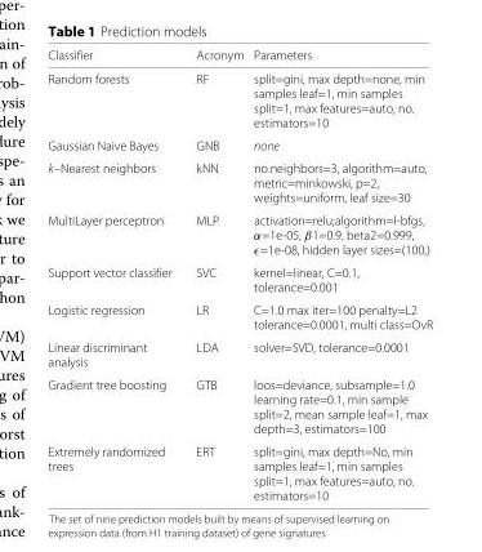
<table><thead><tr><td>Classifier</td><td>Acronym</td><td>Parameters</td></tr></thead><tbody><tr><td>Random forests</td><td>RF</td><td>split=gini, max depth=none, min samples leaf=1, min samples split=1, max features=auto, no. estimators=10</td></tr><tr><td>Gaussian Naive Bayes</td><td>GNB</td><td>none</td></tr><tr><td>k–Nearest neighbors</td><td>kNN</td><td>no.neighbors=3, algorithm=auto, metric=minkowski, p=2, weights=uniform, leaf size=30</td></tr><tr><td>MultiLayer perceptron</td><td>MLP</td><td>activation=relu;algorithm=l-bfgs, α=1e-05, β1=0.9, beta2=0.999, ϵ=1e-08, hidden layer sizes=(100,)</td></tr><tr><td>Support vector classifier</td><td>SVC</td><td>kernel=linear, C=0.1, tolerance=0.001</td></tr><tr><td>Logistic regression</td><td>LR</td><td>C=1.0 max iter=100 penalty=L2 tolerance=0.0001, multi class=OvR</td></tr><tr><td>Linear discriminant analysis</td><td>LDA</td><td>solver=SVD, tolerance=0.0001</td></tr><tr><td>Gradient tree boosting</td><td>GTB</td><td>loos=deviance, subsample=1.0 learning rate=0.1, min sample split=2, mean sample leaf=1, max depth=3, estimators=100</td></tr><tr><td>Extremely randomized trees</td><td>ERT</td><td>split=gini, max depth=No, min samples leaf=1, min samples split=1, max features=auto, no. estimators=10</td></tr></tbody></table>